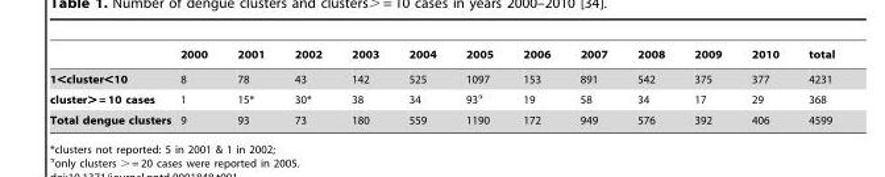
<table><thead><tr><td></td><td>2000</td><td>2001</td><td>2002</td><td>2003</td><td>2004</td><td>2005</td><td>2006</td><td>2007</td><td>2008</td><td>2009</td><td>2010</td><td>total</td></tr></thead><tbody><tr><td>1&lt;cluster&lt;10</td><td>8</td><td>78</td><td>43</td><td>142</td><td>525</td><td>1097</td><td>153</td><td>891</td><td>542</td><td>375</td><td>377</td><td>4231</td></tr><tr><td>cluster&gt; = 10 cases</td><td>1</td><td>15*</td><td>30*</td><td>38</td><td>34</td><td>93α</td><td>19</td><td>58</td><td>34</td><td>17</td><td>29</td><td>368</td></tr><tr><td>Total dengue clusters</td><td>9</td><td>93</td><td>73</td><td>180</td><td>559</td><td>1190</td><td>172</td><td>949</td><td>576</td><td>392</td><td>406</td><td>4599</td></tr></tbody></table>